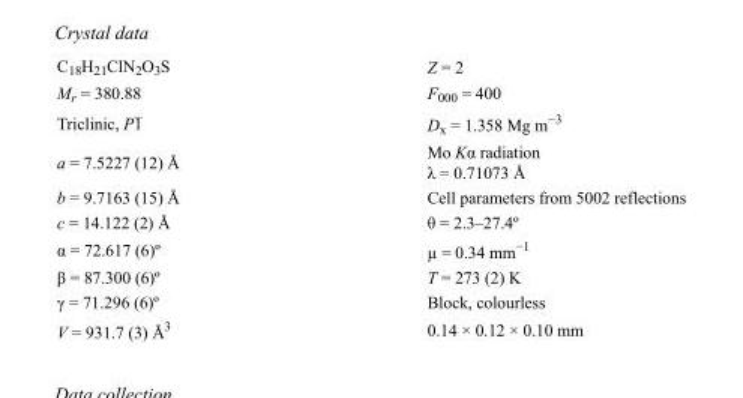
<table><tbody><tr><td>C<sub>18</sub>H<sub>21</sub>ClN<sub>2</sub>O<sub>3</sub>S</td><td>Z = 2</td></tr><tr><td>M<sub>r</sub> = 380.88</td><td>F<sub>000</sub> = 400</td></tr><tr><td>Triclinic, P1</td><td>D<sub>x</sub> = 1.358 Mg m<sup>−3</sup></td></tr><tr><td>a = 7.5227 (12) Å</td><td>Mo Kα radiation λ = 0.71073 Å</td></tr><tr><td>b = 9.7163 (15) Å</td><td>Cell parameters from 5002 reflections</td></tr><tr><td>c = 14.122 (2) Å</td><td>θ = 2.3–27.4º</td></tr><tr><td>α = 72.617 (6)º</td><td>µ = 0.34 mm<sup>−1</sup></td></tr><tr><td>β = 87.300 (6)º</td><td>T = 273 (2) K</td></tr><tr><td>γ = 71.296 (6)º</td><td>Block, colourless</td></tr><tr><td>V = 931.7 (3) Å<sup>3</sup></td><td>0.14 × 0.12 × 0.10 mm</td></tr></tbody></table>